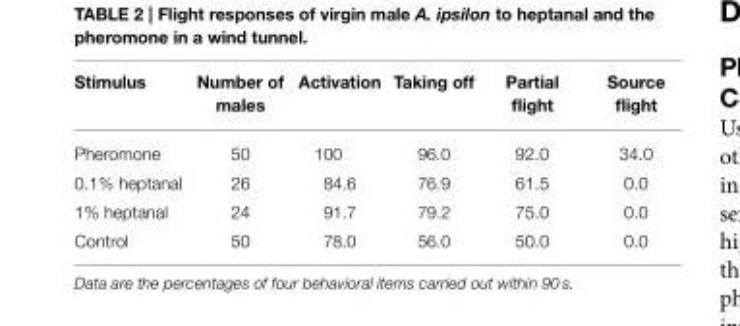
<table><thead><tr><td>Stimulus</td><td>Number of males</td><td>Activation</td><td>Taking off</td><td>Partial flight</td><td>Source flight</td></tr></thead><tbody><tr><td>Pheromone</td><td>50</td><td>100</td><td>96.0</td><td>92.0</td><td>34.0</td></tr><tr><td>0.1% heptanal</td><td>26</td><td>84.6</td><td>76.9</td><td>61.5</td><td>0.0</td></tr><tr><td>1% heptanal</td><td>24</td><td>91.7</td><td>79.2</td><td>75.0</td><td>0.0</td></tr><tr><td>Control</td><td>50</td><td>78.0</td><td>56.0</td><td>50.0</td><td>0.0</td></tr></tbody></table>